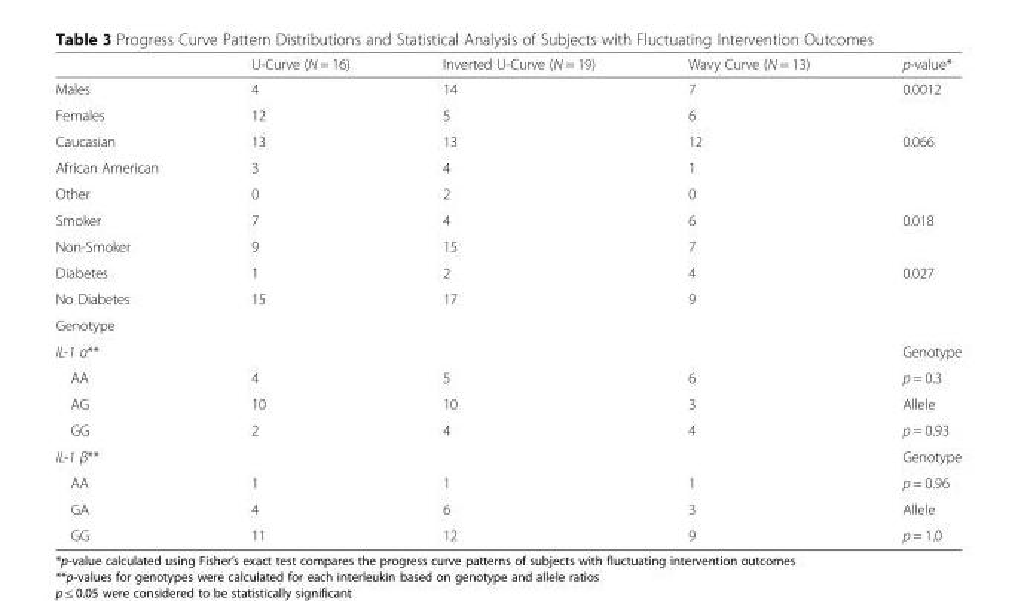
<table><thead><tr><td></td><td>U-Curve (N = 16)</td><td>Inverted U-Curve (N = 19)</td><td>Wavy Curve (N = 13)</td><td>p-value*</td></tr></thead><tbody><tr><td>Males</td><td>4</td><td>14</td><td>7</td><td>0.0012</td></tr><tr><td>Females</td><td>12</td><td>5</td><td>6</td><td></td></tr><tr><td>Caucasian</td><td>13</td><td>13</td><td>12</td><td>0.066</td></tr><tr><td>African American</td><td>3</td><td>4</td><td>1</td><td></td></tr><tr><td>Other</td><td>0</td><td>2</td><td>0</td><td></td></tr><tr><td>Smoker</td><td>7</td><td>4</td><td>6</td><td>0.018</td></tr><tr><td>Non-Smoker</td><td>9</td><td>15</td><td>7</td><td></td></tr><tr><td>Diabetes</td><td>1</td><td>2</td><td>4</td><td>0.027</td></tr><tr><td>No Diabetes</td><td>15</td><td>17</td><td>9</td><td></td></tr><tr><td colspan="5">Genotype</td></tr><tr><td>IL-1 α**</td><td></td><td></td><td></td><td>Genotype</td></tr><tr><td>AA</td><td>4</td><td>5</td><td>6</td><td>p = 0.3</td></tr><tr><td>AG</td><td>10</td><td>10</td><td>3</td><td>Allele</td></tr><tr><td>GG</td><td>2</td><td>4</td><td>4</td><td>p = 0.93</td></tr><tr><td>IL-1 β**</td><td></td><td></td><td></td><td>Genotype</td></tr><tr><td>AA</td><td>1</td><td>1</td><td>1</td><td>p = 0.96</td></tr><tr><td>GA</td><td>4</td><td>6</td><td>3</td><td>Allele</td></tr><tr><td>GG</td><td>11</td><td>12</td><td>9</td><td>p = 1.0</td></tr></tbody></table>